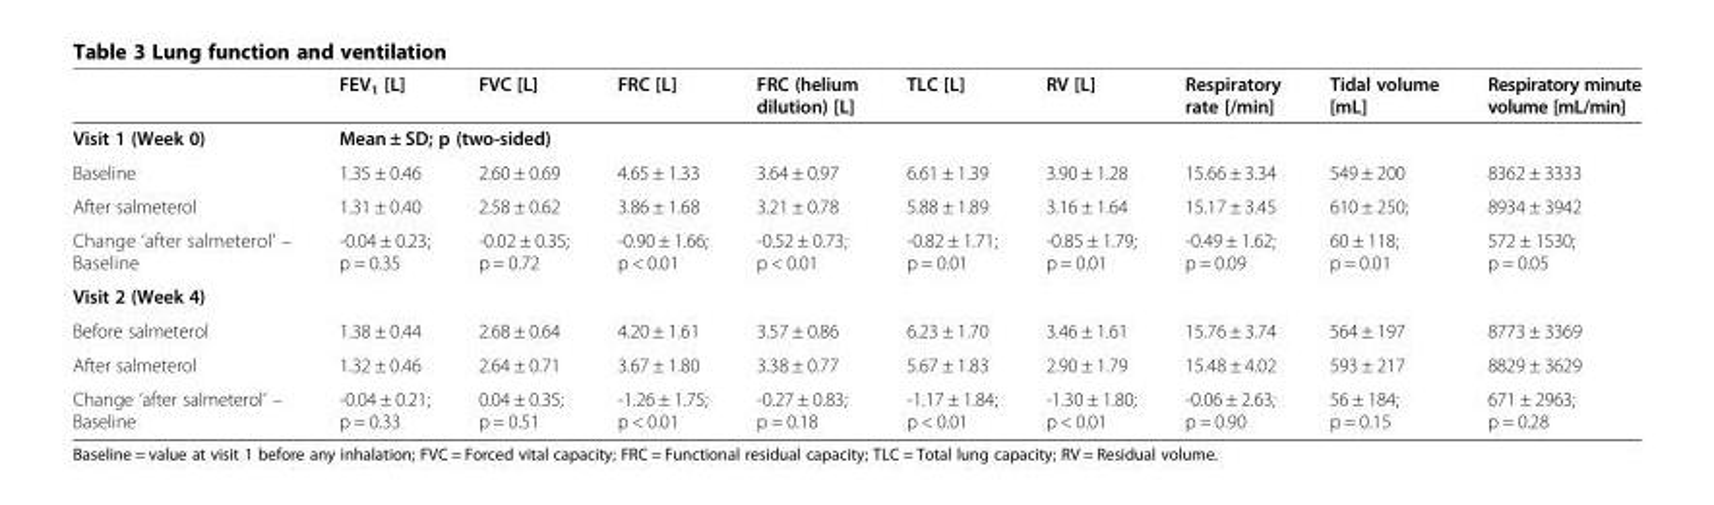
<table><thead><tr><td></td><td>FEV<sub>1</sub> [L]</td><td>FVC [L]</td><td>FRC [L]</td><td>FRC (helium dilution) [L]</td><td>TLC [L]</td><td>RV [L]</td><td>Respiratory rate [/min]</td><td>Tidal volume [mL]</td><td>Respiratory minute volume [mL/min]</td></tr></thead><tbody><tr><td>Visit 1 (Week 0)</td><td colspan="9">Mean ± SD; p (two-sided)</td></tr><tr><td>Baseline</td><td>1.35 ± 0.46</td><td>2.60 ± 0.69</td><td>4.65 ± 1.33</td><td>3.64 ± 0.97</td><td>6.61 ± 1.39</td><td>3.90 ± 1.28</td><td>15.66 ± 3.34</td><td>549 ± 200</td><td>8362 ± 3333</td></tr><tr><td>After salmeterol</td><td>1.31 ± 0.40</td><td>2.58 ± 0.62</td><td>3.86 ± 1.68</td><td>3.21 ± 0.78</td><td>5.88 ± 1.89</td><td>3.16 ± 1.64</td><td>15.17 ± 3.45</td><td>610 ± 250;</td><td>8934 ± 3942</td></tr><tr><td>Change ‘after salmeterol’ – Baseline</td><td>-0.04 ± 0.23; p = 0.35</td><td>-0.02 ± 0.35; p = 0.72</td><td>-0.90 ± 1.66; p &lt; 0.01</td><td>-0.52 ± 0.73; p &lt; 0.01</td><td>-0.82 ± 1.71; p = 0.01</td><td>-0.85 ± 1.79; p = 0.01</td><td>-0.49 ± 1.62; p = 0.09</td><td>60 ± 118; p = 0.01</td><td>572 ± 1530; p = 0.05</td></tr><tr><td colspan="10">Visit 2 (Week 4)</td></tr><tr><td>Before salmeterol</td><td>1.38 ± 0.44</td><td>2.68 ± 0.64</td><td>4.20 ± 1.61</td><td>3.57 ± 0.86</td><td>6.23 ± 1.70</td><td>3.46 ± 1.61</td><td>15.76 ± 3.74</td><td>564 ± 197</td><td>8773 ± 3369</td></tr><tr><td>After salmeterol</td><td>1.32 ± 0.46</td><td>2.64 ± 0.71</td><td>3.67 ± 1.80</td><td>3.38 ± 0.77</td><td>5.67 ± 1.83</td><td>2.90 ± 1.79</td><td>15.48 ± 4.02</td><td>593 ± 217</td><td>8829 ± 3629</td></tr><tr><td>Change ‘after salmeterol’ – Baseline</td><td>-0.04 ± 0.21; p = 0.33</td><td>0.04 ± 0.35; p = 0.51</td><td>-1.26 ± 1.75; p &lt; 0.01</td><td>-0.27 ± 0.83; p = 0.18</td><td>-1.17 ± 1.84; p &lt; 0.01</td><td>-1.30 ± 1.80; p &lt; 0.01</td><td>-0.06 ± 2.63; p = 0.90</td><td>56 ± 184; p = 0.15</td><td>671 ± 2963; p = 0.28</td></tr></tbody></table>